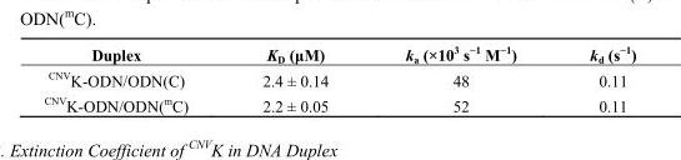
<table><thead><tr><td>Duplex</td><td>K<sub>D</sub> (μM)</td><td>k<sub>a</sub> (×10<sup>3</sup> s<sup>−1</sup> M<sup>−1</sup>)</td><td>k<sub>d</sub> (s<sup>−1</sup>)</td></tr></thead><tbody><tr><td><sup>CNV</sup>K-ODN/ODN(C)</td><td>2.4 ± 0.14</td><td>48</td><td>0.11</td></tr><tr><td><sup>CNV</sup>K-ODN/ODN(<sup>m</sup>C)</td><td>2.2 ± 0.05</td><td>52</td><td>0.11</td></tr></tbody></table>